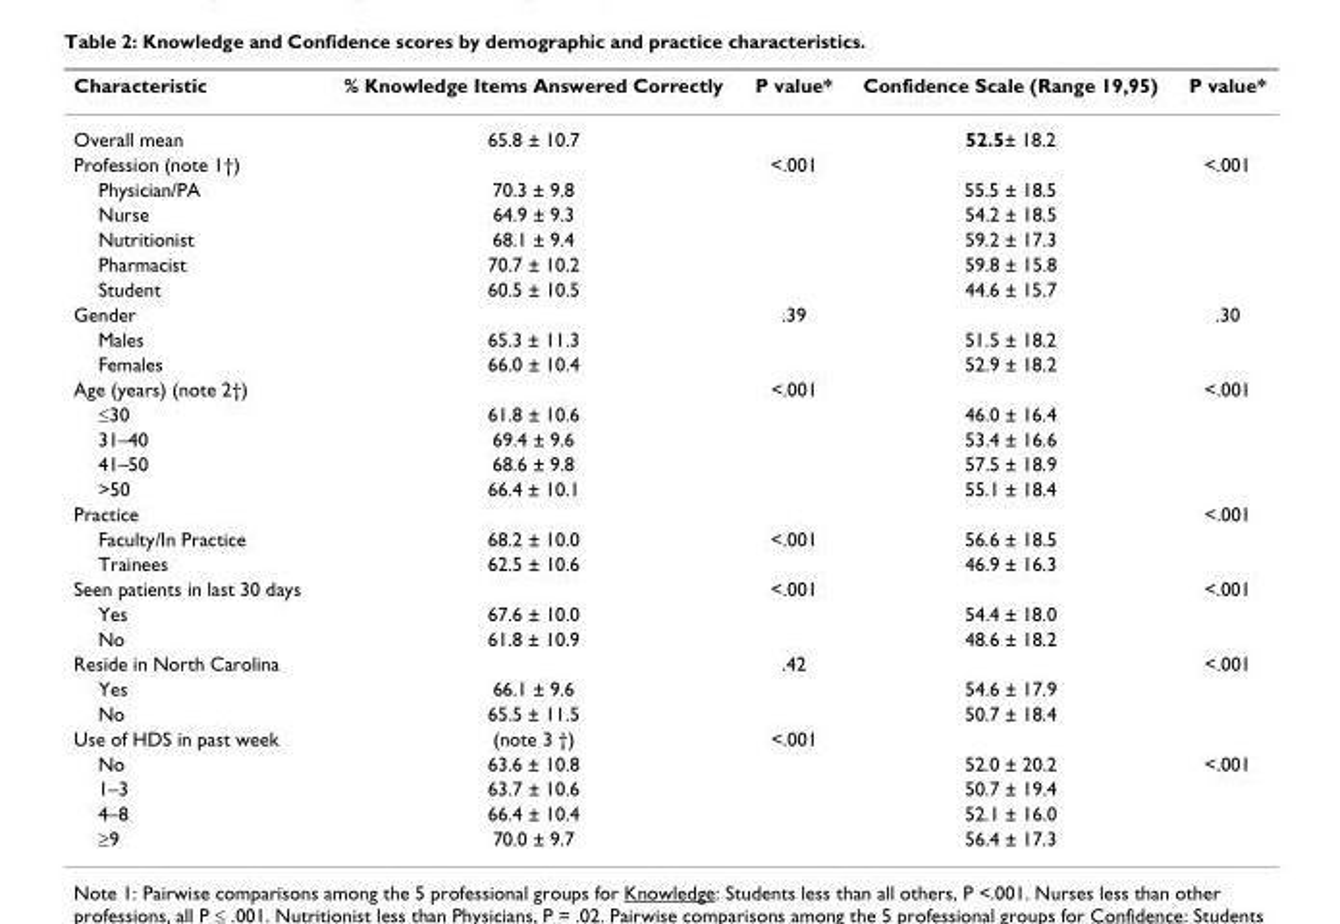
<table><thead><tr><td>Characteristic</td><td>% Knowledge Items Answered Correctly</td><td>P value*</td><td>Confidence Scale (Range 19,95)</td><td>P value*</td></tr></thead><tbody><tr><td>Overall mean</td><td>65.8 ± 10.7</td><td></td><td>52.5± 18.2</td><td></td></tr><tr><td>Profession (note 1†)</td><td></td><td>&lt;.001</td><td></td><td>&lt;.001</td></tr><tr><td>Physician/PA</td><td>70.3 ± 9.8</td><td></td><td>55.5 ± 18.5</td><td></td></tr><tr><td>Nurse</td><td>64.9 ± 9.3</td><td></td><td>54.2 ± 18.5</td><td></td></tr><tr><td>Nutritionist</td><td>68.1 ± 9.4</td><td></td><td>59.2 ± 17.3</td><td></td></tr><tr><td>Pharmacist</td><td>70.7 ± 10.2</td><td></td><td>59.8 ± 15.8</td><td></td></tr><tr><td>Student</td><td>60.5 ± 10.5</td><td></td><td>44.6 ± 15.7</td><td></td></tr><tr><td>Gender</td><td></td><td>.39</td><td></td><td>.30</td></tr><tr><td>Males</td><td>65.3 ± 11.3</td><td></td><td>51.5 ± 18.2</td><td></td></tr><tr><td>Females</td><td>66.0 ± 10.4</td><td></td><td>52.9 ± 18.2</td><td></td></tr><tr><td>Age (years) (note 2†)</td><td></td><td>&lt;.001</td><td></td><td>&lt;.001</td></tr><tr><td>≤30</td><td>61.8 ± 10.6</td><td></td><td>46.0 ± 16.4</td><td></td></tr><tr><td>31–40</td><td>69.4 ± 9.6</td><td></td><td>53.4 ± 16.6</td><td></td></tr><tr><td>41–50</td><td>68.6 ± 9.8</td><td></td><td>57.5 ± 18.9</td><td></td></tr><tr><td>&gt;50</td><td>66.4 ± 10.1</td><td></td><td>55.1 ± 18.4</td><td></td></tr><tr><td>Practice</td><td></td><td></td><td></td><td>&lt;.001</td></tr><tr><td>Faculty/In Practice</td><td>68.2 ± 10.0</td><td>&lt;.001</td><td>56.6 ± 18.5</td><td></td></tr><tr><td>Trainees</td><td>62.5 ± 10.6</td><td></td><td>46.9 ± 16.3</td><td></td></tr><tr><td>Seen patients in last 30 days</td><td></td><td>&lt;.001</td><td></td><td>&lt;.001</td></tr><tr><td>Yes</td><td>67.6 ± 10.0</td><td></td><td>54.4 ± 18.0</td><td></td></tr><tr><td>No</td><td>61.8 ± 10.9</td><td></td><td>48.6 ± 18.2</td><td></td></tr><tr><td>Reside in North Carolina</td><td></td><td>.42</td><td></td><td>&lt;.001</td></tr><tr><td>Yes</td><td>66.1 ± 9.6</td><td></td><td>54.6 ± 17.9</td><td></td></tr><tr><td>No</td><td>65.5 ± 11.5</td><td></td><td>50.7 ± 18.4</td><td></td></tr><tr><td>Use of HDS in past week</td><td>(note 3 †)</td><td>&lt;.001</td><td></td><td></td></tr><tr><td>No</td><td>63.6 ± 10.8</td><td></td><td>52.0 ± 20.2</td><td>&lt;.001</td></tr><tr><td>1–3</td><td>63.7 ± 10.6</td><td></td><td>50.7 ± 19.4</td><td></td></tr><tr><td>4–8</td><td>66.4 ± 10.4</td><td></td><td>52.1 ± 16.0</td><td></td></tr><tr><td>≥9</td><td>70.0 ± 9.7</td><td></td><td>56.4 ± 17.3</td><td></td></tr></tbody></table>